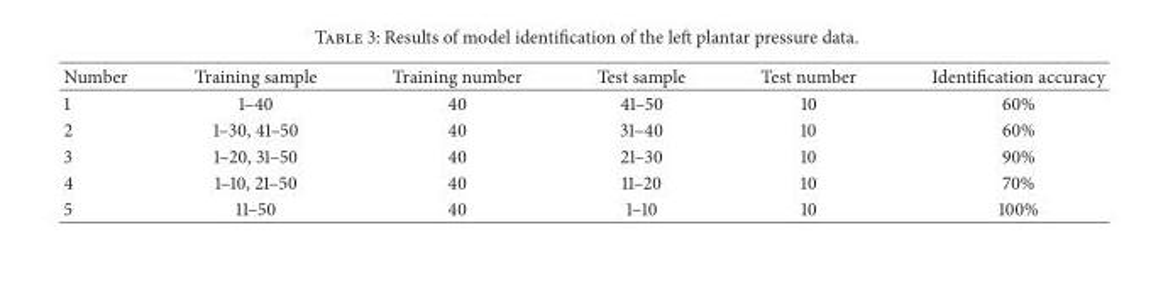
<table><thead><tr><td>Number</td><td>Training sample</td><td>Training number</td><td>Test sample</td><td>Test number</td><td>Identification accuracy</td></tr></thead><tbody><tr><td>1</td><td>1–40</td><td>40</td><td>41–50</td><td>10</td><td>60%</td></tr><tr><td>2</td><td>1–30, 41–50</td><td>40</td><td>31–40</td><td>10</td><td>60%</td></tr><tr><td>3</td><td>1–20, 31–50</td><td>40</td><td>21–30</td><td>10</td><td>90%</td></tr><tr><td>4</td><td>1–10, 21–50</td><td>40</td><td>11–20</td><td>10</td><td>70%</td></tr><tr><td>5</td><td>11–50</td><td>40</td><td>1–10</td><td>10</td><td>100%</td></tr></tbody></table>